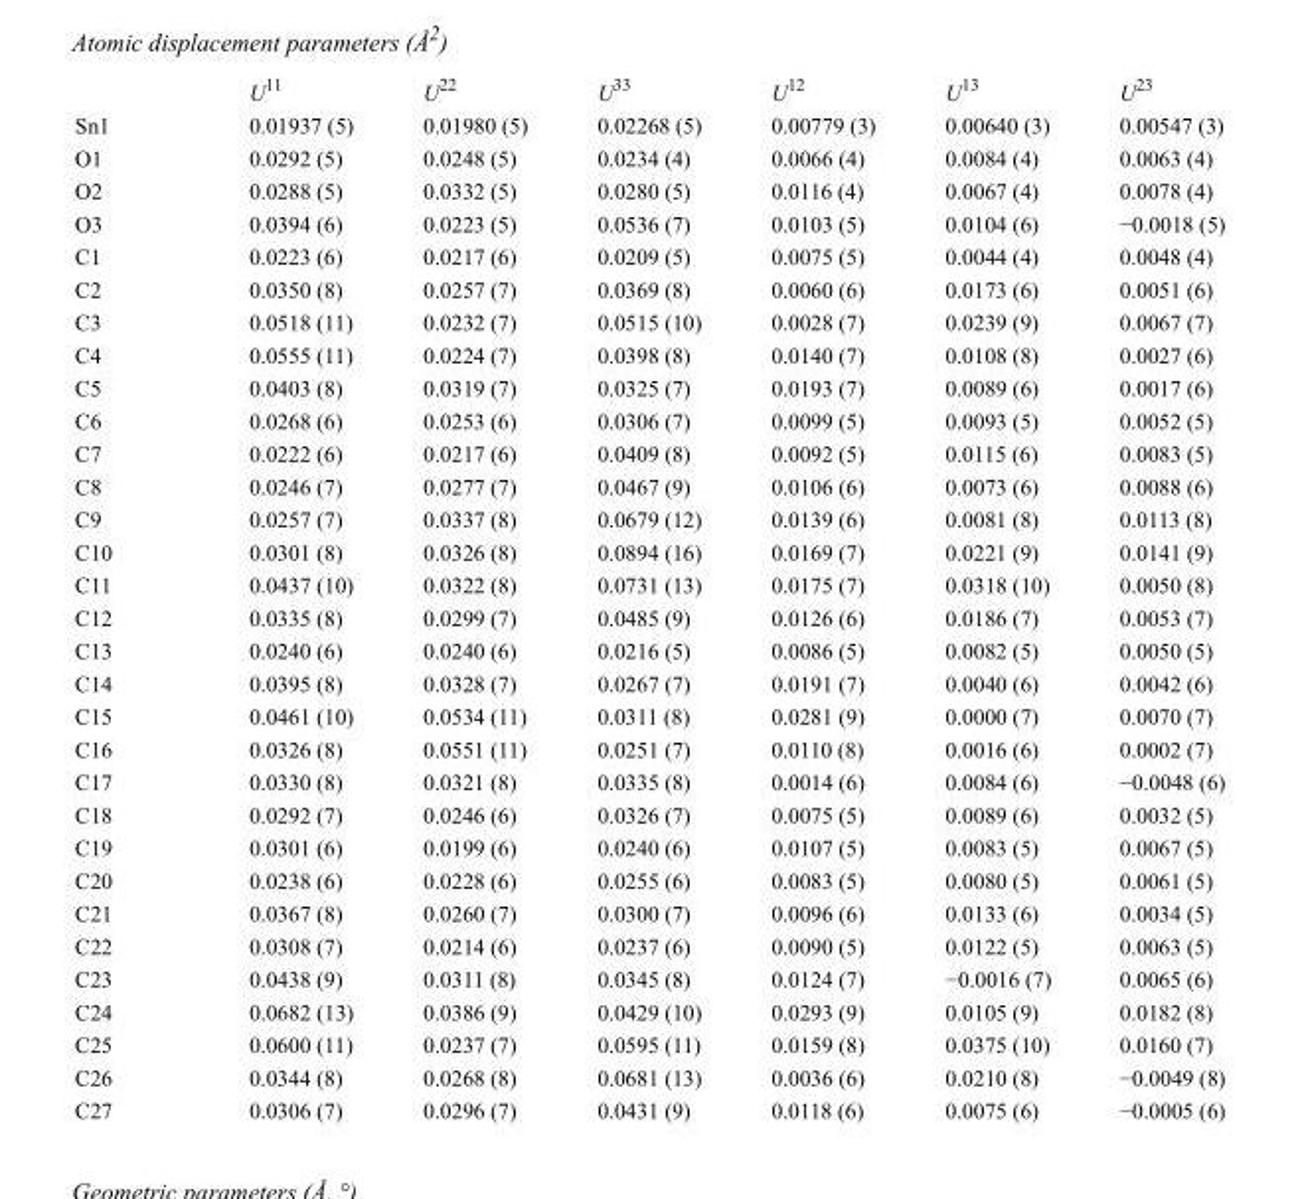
<table><thead><tr><td></td><td>U<sup>11</sup></td><td>U<sup>22</sup></td><td>U<sup>33</sup></td><td>U<sup>12</sup></td><td>U<sup>13</sup></td><td>U<sup>23</sup></td></tr></thead><tbody><tr><td>Sn1</td><td>0.01937 (5)</td><td>0.01980 (5)</td><td>0.02268 (5)</td><td>0.00779 (3)</td><td>0.00640 (3)</td><td>0.00547 (3)</td></tr><tr><td>O1</td><td>0.0292 (5)</td><td>0.0248 (5)</td><td>0.0234 (4)</td><td>0.0066 (4)</td><td>0.0084 (4)</td><td>0.0063 (4)</td></tr><tr><td>O2</td><td>0.0288 (5)</td><td>0.0332 (5)</td><td>0.0280 (5)</td><td>0.0116 (4)</td><td>0.0067 (4)</td><td>0.0078 (4)</td></tr><tr><td>O3</td><td>0.0394 (6)</td><td>0.0223 (5)</td><td>0.0536 (7)</td><td>0.0103 (5)</td><td>0.0104 (6)</td><td>−0.0018 (5)</td></tr><tr><td>C1</td><td>0.0223 (6)</td><td>0.0217 (6)</td><td>0.0209 (5)</td><td>0.0075 (5)</td><td>0.0044 (4)</td><td>0.0048 (4)</td></tr><tr><td>C2</td><td>0.0350 (8)</td><td>0.0257 (7)</td><td>0.0369 (8)</td><td>0.0060 (6)</td><td>0.0173 (6)</td><td>0.0051 (6)</td></tr><tr><td>C3</td><td>0.0518 (11)</td><td>0.0232 (7)</td><td>0.0515 (10)</td><td>0.0028 (7)</td><td>0.0239 (9)</td><td>0.0067 (7)</td></tr><tr><td>C4</td><td>0.0555 (11)</td><td>0.0224 (7)</td><td>0.0398 (8)</td><td>0.0140 (7)</td><td>0.0108 (8)</td><td>0.0027 (6)</td></tr><tr><td>C5</td><td>0.0403 (8)</td><td>0.0319 (7)</td><td>0.0325 (7)</td><td>0.0193 (7)</td><td>0.0089 (6)</td><td>0.0017 (6)</td></tr><tr><td>C6</td><td>0.0268 (6)</td><td>0.0253 (6)</td><td>0.0306 (7)</td><td>0.0099 (5)</td><td>0.0093 (5)</td><td>0.0052 (5)</td></tr><tr><td>C7</td><td>0.0222 (6)</td><td>0.0217 (6)</td><td>0.0409 (8)</td><td>0.0092 (5)</td><td>0.0115 (6)</td><td>0.0083 (5)</td></tr><tr><td>C8</td><td>0.0246 (7)</td><td>0.0277 (7)</td><td>0.0467 (9)</td><td>0.0106 (6)</td><td>0.0073 (6)</td><td>0.0088 (6)</td></tr><tr><td>C9</td><td>0.0257 (7)</td><td>0.0337 (8)</td><td>0.0679 (12)</td><td>0.0139 (6)</td><td>0.0081 (8)</td><td>0.0113 (8)</td></tr><tr><td>C10</td><td>0.0301 (8)</td><td>0.0326 (8)</td><td>0.0894 (16)</td><td>0.0169 (7)</td><td>0.0221 (9)</td><td>0.0141 (9)</td></tr><tr><td>C11</td><td>0.0437 (10)</td><td>0.0322 (8)</td><td>0.0731 (13)</td><td>0.0175 (7)</td><td>0.0318 (10)</td><td>0.0050 (8)</td></tr><tr><td>C12</td><td>0.0335 (8)</td><td>0.0299 (7)</td><td>0.0485 (9)</td><td>0.0126 (6)</td><td>0.0186 (7)</td><td>0.0053 (7)</td></tr><tr><td>C13</td><td>0.0240 (6)</td><td>0.0240 (6)</td><td>0.0216 (5)</td><td>0.0086 (5)</td><td>0.0082 (5)</td><td>0.0050 (5)</td></tr><tr><td>C14</td><td>0.0395 (8)</td><td>0.0328 (7)</td><td>0.0267 (7)</td><td>0.0191 (7)</td><td>0.0040 (6)</td><td>0.0042 (6)</td></tr><tr><td>C15</td><td>0.0461 (10)</td><td>0.0534 (11)</td><td>0.0311 (8)</td><td>0.0281 (9)</td><td>0.0000 (7)</td><td>0.0070 (7)</td></tr><tr><td>C16</td><td>0.0326 (8)</td><td>0.0551 (11)</td><td>0.0251 (7)</td><td>0.0110 (8)</td><td>0.0016 (6)</td><td>0.0002 (7)</td></tr><tr><td>C17</td><td>0.0330 (8)</td><td>0.0321 (8)</td><td>0.0335 (8)</td><td>0.0014 (6)</td><td>0.0084 (6)</td><td>−0.0048 (6)</td></tr><tr><td>C18</td><td>0.0292 (7)</td><td>0.0246 (6)</td><td>0.0326 (7)</td><td>0.0075 (5)</td><td>0.0089 (6)</td><td>0.0032 (5)</td></tr><tr><td>C19</td><td>0.0301 (6)</td><td>0.0199 (6)</td><td>0.0240 (6)</td><td>0.0107 (5)</td><td>0.0083 (5)</td><td>0.0067 (5)</td></tr><tr><td>C20</td><td>0.0238 (6)</td><td>0.0228 (6)</td><td>0.0255 (6)</td><td>0.0083 (5)</td><td>0.0080 (5)</td><td>0.0061 (5)</td></tr><tr><td>C21</td><td>0.0367 (8)</td><td>0.0260 (7)</td><td>0.0300 (7)</td><td>0.0096 (6)</td><td>0.0133 (6)</td><td>0.0034 (5)</td></tr><tr><td>C22</td><td>0.0308 (7)</td><td>0.0214 (6)</td><td>0.0237 (6)</td><td>0.0090 (5)</td><td>0.0122 (5)</td><td>0.0063 (5)</td></tr><tr><td>C23</td><td>0.0438 (9)</td><td>0.0311 (8)</td><td>0.0345 (8)</td><td>0.0124 (7)</td><td>−0.0016 (7)</td><td>0.0065 (6)</td></tr><tr><td>C24</td><td>0.0682 (13)</td><td>0.0386 (9)</td><td>0.0429 (10)</td><td>0.0293 (9)</td><td>0.0105 (9)</td><td>0.0182 (8)</td></tr><tr><td>C25</td><td>0.0600 (11)</td><td>0.0237 (7)</td><td>0.0595 (11)</td><td>0.0159 (8)</td><td>0.0375 (10)</td><td>0.0160 (7)</td></tr><tr><td>C26</td><td>0.0344 (8)</td><td>0.0268 (8)</td><td>0.0681 (13)</td><td>0.0036 (6)</td><td>0.0210 (8)</td><td>−0.0049 (8)</td></tr><tr><td>C27</td><td>0.0306 (7)</td><td>0.0296 (7)</td><td>0.0431 (9)</td><td>0.0118 (6)</td><td>0.0075 (6)</td><td>−0.0005 (6)</td></tr></tbody></table>